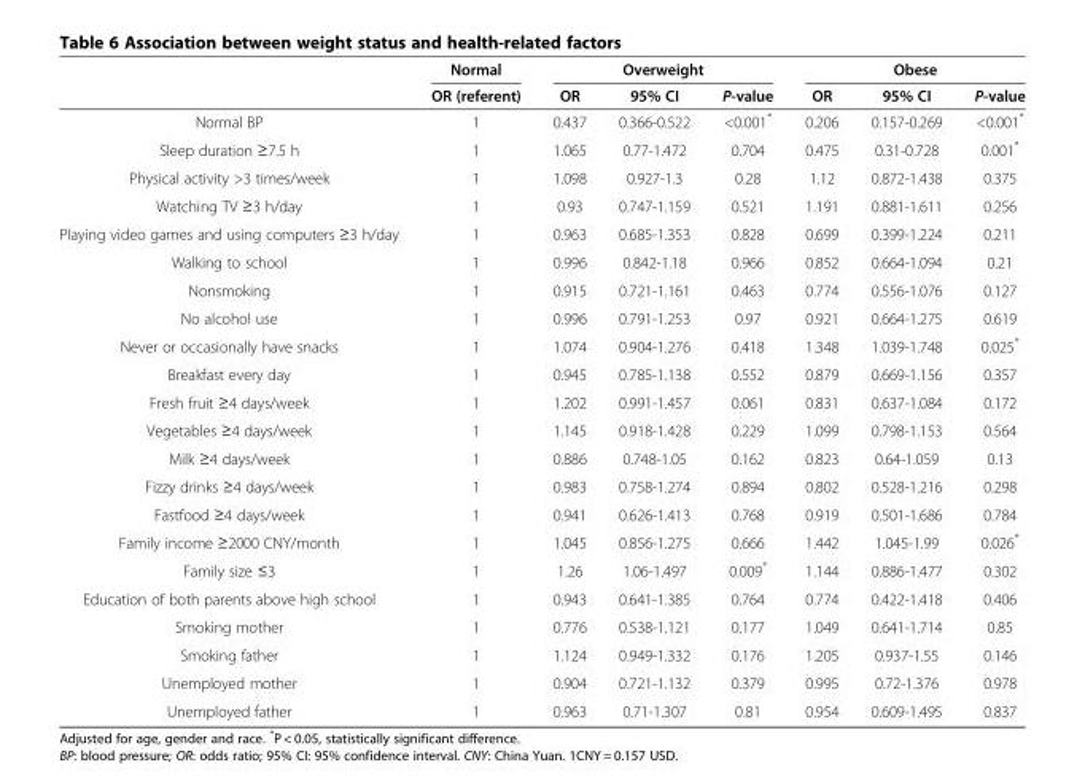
<table><thead><tr><td rowspan="2"></td><td rowspan="2">Normal OR (referent)</td><td colspan="3">Overweight</td><td colspan="3">Obese</td></tr><tr><td>OR</td><td>95% CI</td><td>P-value</td><td>OR</td><td>95% CI</td><td>P-value</td></tr></thead><tbody><tr><td>Normal BP</td><td>1</td><td>0.437</td><td>0.366-0.522</td><td>&lt;0.001*</td><td>0.206</td><td>0.157-0.269</td><td>&lt;0.001*</td></tr><tr><td>Sleep duration ≥7.5 h</td><td>1</td><td>1.065</td><td>0.77-1.472</td><td>0.704</td><td>0.475</td><td>0.31-0.728</td><td>0.001*</td></tr><tr><td>Physical activity &gt;3 times/week</td><td>1</td><td>1.098</td><td>0.927-1.3</td><td>0.28</td><td>1.12</td><td>0.872-1.438</td><td>0.375</td></tr><tr><td>Watching TV ≥3 h/day</td><td>1</td><td>0.93</td><td>0.747-1.159</td><td>0.521</td><td>1.191</td><td>0.881-1.611</td><td>0.256</td></tr><tr><td>Playing video games and using computers ≥3 h/day</td><td>1</td><td>0.963</td><td>0.685-1.353</td><td>0.828</td><td>0.699</td><td>0.399-1.224</td><td>0.211</td></tr><tr><td>Walking to school</td><td>1</td><td>0.996</td><td>0.842-1.18</td><td>0.966</td><td>0.852</td><td>0.664-1.094</td><td>0.21</td></tr><tr><td>Nonsmoking</td><td>1</td><td>0.915</td><td>0.721-1.161</td><td>0.463</td><td>0.774</td><td>0.556-1.076</td><td>0.127</td></tr><tr><td>No alcohol use</td><td>1</td><td>0.996</td><td>0.791-1.253</td><td>0.97</td><td>0.921</td><td>0.664-1.275</td><td>0.619</td></tr><tr><td>Never or occasionally have snacks</td><td>1</td><td>1.074</td><td>0.904-1.276</td><td>0.418</td><td>1.348</td><td>1.039-1.748</td><td>0.025*</td></tr><tr><td>Breakfast every day</td><td>1</td><td>0.945</td><td>0.785-1.138</td><td>0.552</td><td>0.879</td><td>0.669-1.156</td><td>0.357</td></tr><tr><td>Fresh fruit ≥4 days/week</td><td>1</td><td>1.202</td><td>0.991-1.457</td><td>0.061</td><td>0.831</td><td>0.637-1.084</td><td>0.172</td></tr><tr><td>Vegetables ≥4 days/week</td><td>1</td><td>1.145</td><td>0.918-1.428</td><td>0.229</td><td>1.099</td><td>0.798-1.153</td><td>0.564</td></tr><tr><td>Milk ≥4 days/week</td><td>1</td><td>0.886</td><td>0.748-1.05</td><td>0.162</td><td>0.823</td><td>0.64-1.059</td><td>0.13</td></tr><tr><td>Fizzy drinks ≥4 days/week</td><td>1</td><td>0.983</td><td>0.758-1.274</td><td>0.894</td><td>0.802</td><td>0.528-1.216</td><td>0.298</td></tr><tr><td>Fastfood ≥4 days/week</td><td>1</td><td>0.941</td><td>0.626-1.413</td><td>0.768</td><td>0.919</td><td>0.501-1.686</td><td>0.784</td></tr><tr><td>Family income ≥2000 CNY/month</td><td>1</td><td>1.045</td><td>0.856-1.275</td><td>0.666</td><td>1.442</td><td>1.045-1.99</td><td>0.026*</td></tr><tr><td>Family size ≤3</td><td>1</td><td>1.26</td><td>1.06-1.497</td><td>0.009*</td><td>1.144</td><td>0.886-1.477</td><td>0.302</td></tr><tr><td>Education of both parents above high school</td><td>1</td><td>0.943</td><td>0.641-1.385</td><td>0.764</td><td>0.774</td><td>0.422-1.418</td><td>0.406</td></tr><tr><td>Smoking mother</td><td>1</td><td>0.776</td><td>0.538-1.121</td><td>0.177</td><td>1.049</td><td>0.641-1.714</td><td>0.85</td></tr><tr><td>Smoking father</td><td>1</td><td>1.124</td><td>0.949-1.332</td><td>0.176</td><td>1.205</td><td>0.937-1.55</td><td>0.146</td></tr><tr><td>Unemployed mother</td><td>1</td><td>0.904</td><td>0.721-1.132</td><td>0.379</td><td>0.995</td><td>0.72-1.376</td><td>0.978</td></tr><tr><td>Unemployed father</td><td>1</td><td>0.963</td><td>0.71-1.307</td><td>0.81</td><td>0.954</td><td>0.609-1.495</td><td>0.837</td></tr></tbody></table>